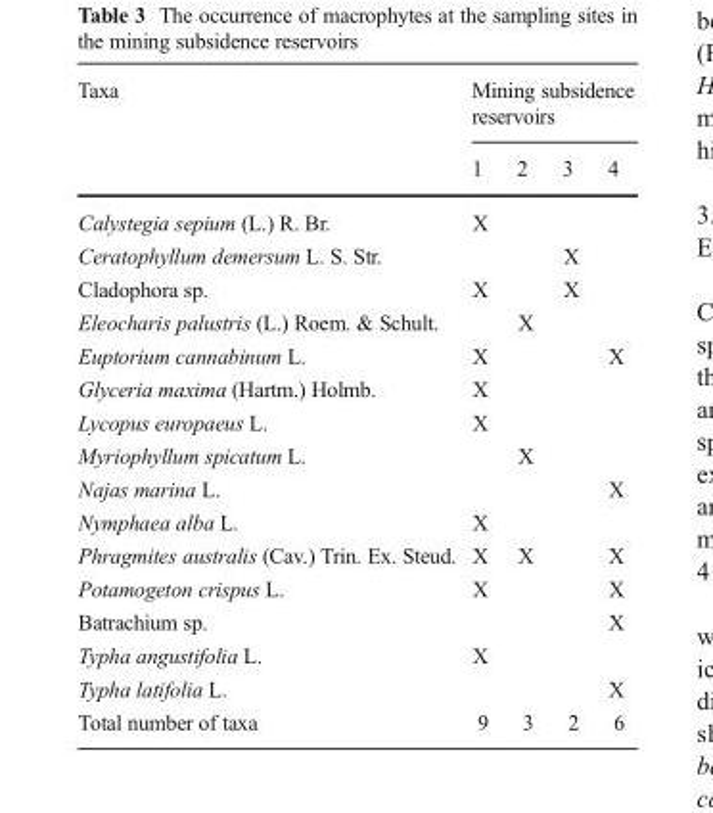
<table><thead><tr><td rowspan="2">Taxa</td><td colspan="4">Mining subsidence reservoirs</td></tr><tr><td>1</td><td>2</td><td>3</td><td>4</td></tr></thead><tbody><tr><td>Calystegia sepium (L.) R. Br.</td><td>X</td><td></td><td></td><td></td></tr><tr><td>Ceratophyllum demersum L. S. Str.</td><td></td><td></td><td>X</td><td></td></tr><tr><td>Cladophora sp.</td><td>X</td><td></td><td>X</td><td></td></tr><tr><td>Eleocharis palustris (L.) Roem. &amp; Schult.</td><td></td><td>X</td><td></td><td></td></tr><tr><td>Euptorium cannabinum L.</td><td>X</td><td></td><td></td><td>X</td></tr><tr><td>Glyceria maxima (Hartm.) Holmb.</td><td>X</td><td></td><td></td><td></td></tr><tr><td>Lycopus europaeus L.</td><td>X</td><td></td><td></td><td></td></tr><tr><td>Myriophyllum spicatum L.</td><td></td><td>X</td><td></td><td></td></tr><tr><td>Najas marina L.</td><td></td><td></td><td></td><td>X</td></tr><tr><td>Nymphaea alba L.</td><td>X</td><td></td><td></td><td></td></tr><tr><td>Phragmites australis (Cav.) Trin. Ex. Steud.</td><td>X</td><td>X</td><td></td><td>X</td></tr><tr><td>Potamogeton crispus L.</td><td>X</td><td></td><td></td><td>X</td></tr><tr><td>Batrachium sp.</td><td></td><td></td><td></td><td>X</td></tr><tr><td>Typha angustifolia L.</td><td>X</td><td></td><td></td><td></td></tr><tr><td>Typha latifolia L.</td><td></td><td></td><td></td><td>X</td></tr><tr><td>Total number of taxa</td><td>9</td><td>3</td><td>2</td><td>6</td></tr></tbody></table>